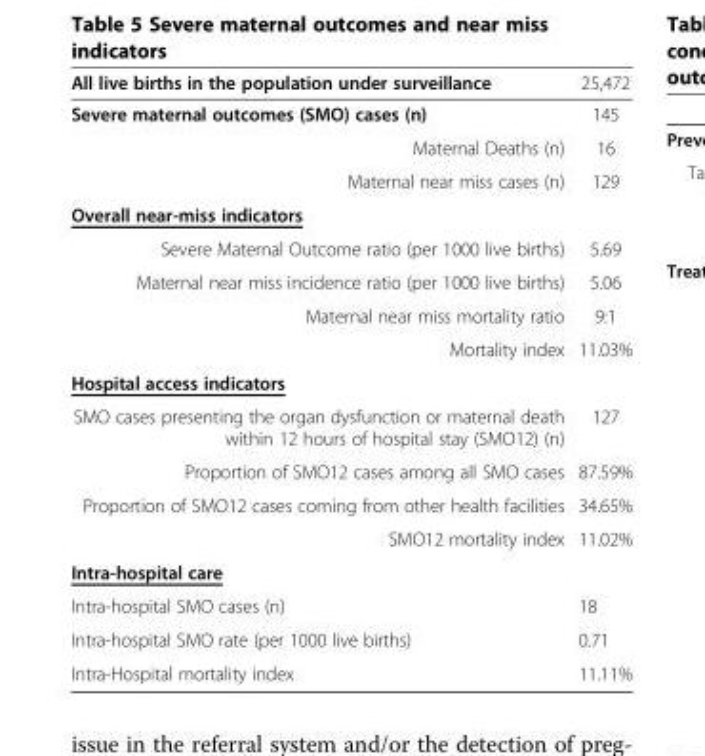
<table><thead><tr><td>All live births in the population under surveillance</td><td>25,472</td></tr></thead><tbody><tr><td>Severe maternal outcomes (SMO) cases (n)</td><td>145</td></tr><tr><td>Maternal Deaths (n)</td><td>16</td></tr><tr><td>Maternal near miss cases (n)</td><td>129</td></tr><tr><td colspan="2">Overall near-miss indicators</td></tr><tr><td>Severe Maternal Outcome ratio (per 1000 live births)</td><td>5.69</td></tr><tr><td>Maternal near miss incidence ratio (per 1000 live births)</td><td>5.06</td></tr><tr><td>Maternal near miss mortality ratio</td><td>9:1</td></tr><tr><td>Mortality index</td><td>11.03%</td></tr><tr><td colspan="2">Hospital access indicators</td></tr><tr><td>SMO cases presenting the organ dysfunction or maternal death within 12 hours of hospital stay (SMO12) (n)</td><td>127</td></tr><tr><td>Proportion of SMO12 cases among all SMO cases</td><td>87.59%</td></tr><tr><td>Proportion of SMO12 cases coming from other health facilities</td><td>34.65%</td></tr><tr><td>SMO12 mortality index</td><td>11.02%</td></tr><tr><td colspan="2">Intra-hospital care</td></tr><tr><td>Intra-hospital SMO cases (n)</td><td>18</td></tr><tr><td>Intra-hospital SMO rate (per 1000 live births)</td><td>0.71</td></tr><tr><td>Intra-Hospital mortality index</td><td>11.11%</td></tr></tbody></table>